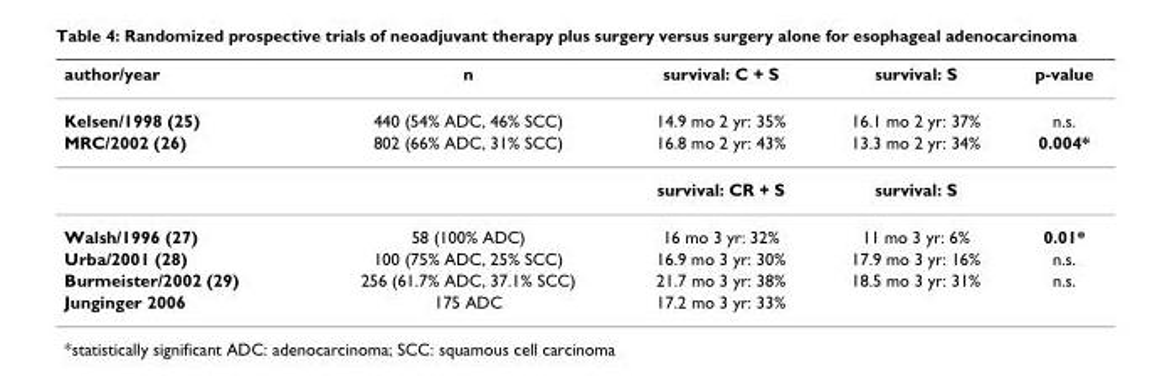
<table><thead><tr><td>author/year</td><td>n</td><td>survival: C + S</td><td>survival: S</td><td>p-value</td></tr></thead><tbody><tr><td>Kelsen/1998 (25)</td><td>440 (54% ADC, 46% SCC)</td><td>14.9 mo 2 yr: 35%</td><td>16.1 mo 2 yr: 37%</td><td>n.s.</td></tr><tr><td rowspan="2">MRC/2002 (26)</td><td>802 (66% ADC, 31% SCC)</td><td>16.8 mo 2 yr: 43%</td><td>13.3 mo 2 yr: 34%</td><td>0.004*</td></tr><tr><td></td><td>survival: CR + S</td><td>survival: S</td><td></td></tr><tr><td>Walsh/1996 (27)</td><td>58 (100% ADC)</td><td>16 mo 3 yr: 32%</td><td>11 mo 3 yr: 6%</td><td>0.01*</td></tr><tr><td>Urba/2001 (28)</td><td>100 (75% ADC, 25% SCC)</td><td>16.9 mo 3 yr: 30%</td><td>17.9 mo 3 yr: 16%</td><td>n.s.</td></tr><tr><td>Burmeister/2002 (29)</td><td>256 (61.7% ADC, 37.1% SCC)</td><td>21.7 mo 3 yr: 38%</td><td>18.5 mo 3 yr: 31%</td><td>n.s.</td></tr><tr><td>Junginger 2006</td><td>175 ADC</td><td>17.2 mo 3 yr: 33%</td><td></td><td></td></tr></tbody></table>